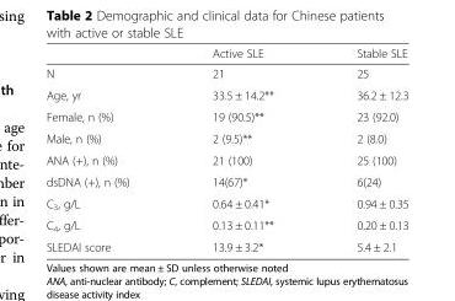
<table><thead><tr><td></td><td>Active SLE</td><td>Stable SLE</td></tr></thead><tbody><tr><td>N</td><td>21</td><td>25</td></tr><tr><td>Age, yr</td><td>33.5 ± 14.2**</td><td>36.2 ± 12.3</td></tr><tr><td>Female, n (%)</td><td>19 (90.5)**</td><td>23 (92.0)</td></tr><tr><td>Male, n (%)</td><td>2 (9.5)**</td><td>2 (8.0)</td></tr><tr><td>ANA (+), n (%)</td><td>21 (100)</td><td>25 (100)</td></tr><tr><td>dsDNA (+), n (%)</td><td>14(67)*</td><td>6(24)</td></tr><tr><td>C<sub>3</sub>, g/L</td><td>0.64 ± 0.41*</td><td>0.94 ± 0.35</td></tr><tr><td>C<sub>4</sub>, g/L</td><td>0.13 ± 0.11**</td><td>0.20 ± 0.13</td></tr><tr><td>SLEDAI score</td><td>13.9 ± 3.2*</td><td>5.4 ± 2.1</td></tr></tbody></table>